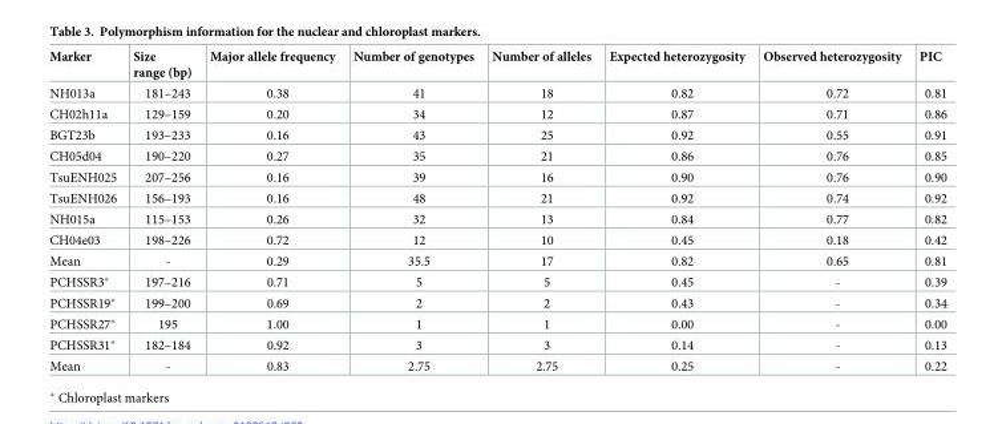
<table><thead><tr><td>Marker</td><td>Size range (bp)</td><td>Major allele frequency</td><td>Number of genotypes</td><td>Number of alleles</td><td>Expected heterozygosity</td><td>Observed heterozygosity</td><td>PIC</td></tr></thead><tbody><tr><td>NH013a</td><td>181–243</td><td>0.38</td><td>41</td><td>18</td><td>0.82</td><td>0.72</td><td>0.81</td></tr><tr><td>CH02h11a</td><td>129–159</td><td>0.20</td><td>34</td><td>12</td><td>0.87</td><td>0.71</td><td>0.86</td></tr><tr><td>BGT23b</td><td>193–233</td><td>0.16</td><td>43</td><td>25</td><td>0.92</td><td>0.55</td><td>0.91</td></tr><tr><td>CH05d04</td><td>190–220</td><td>0.27</td><td>35</td><td>21</td><td>0.86</td><td>0.76</td><td>0.85</td></tr><tr><td>TsuENH025</td><td>207–256</td><td>0.16</td><td>39</td><td>16</td><td>0.90</td><td>0.76</td><td>0.90</td></tr><tr><td>TsuENH026</td><td>156–193</td><td>0.16</td><td>48</td><td>21</td><td>0.92</td><td>0.74</td><td>0.92</td></tr><tr><td>NH015a</td><td>115–153</td><td>0.26</td><td>32</td><td>13</td><td>0.84</td><td>0.77</td><td>0.82</td></tr><tr><td>CH04e03</td><td>198–226</td><td>0.72</td><td>12</td><td>10</td><td>0.45</td><td>0.18</td><td>0.42</td></tr><tr><td>Mean</td><td>-</td><td>0.29</td><td>35.5</td><td>17</td><td>0.82</td><td>0.65</td><td>0.81</td></tr><tr><td>PCHSSR3*</td><td>197–216</td><td>0.71</td><td>5</td><td>5</td><td>0.45</td><td>-</td><td>0.39</td></tr><tr><td>PCHSSR19*</td><td>199–200</td><td>0.69</td><td>2</td><td>2</td><td>0.43</td><td>-</td><td>0.34</td></tr><tr><td>PCHSSR27*</td><td>195</td><td>1.00</td><td>1</td><td>1</td><td>0.00</td><td>-</td><td>0.00</td></tr><tr><td>PCHSSR31*</td><td>182–184</td><td>0.92</td><td>3</td><td>3</td><td>0.14</td><td>-</td><td>0.13</td></tr><tr><td>Mean</td><td>-</td><td>0.83</td><td>2.75</td><td>2.75</td><td>0.25</td><td>-</td><td>0.22</td></tr></tbody></table>